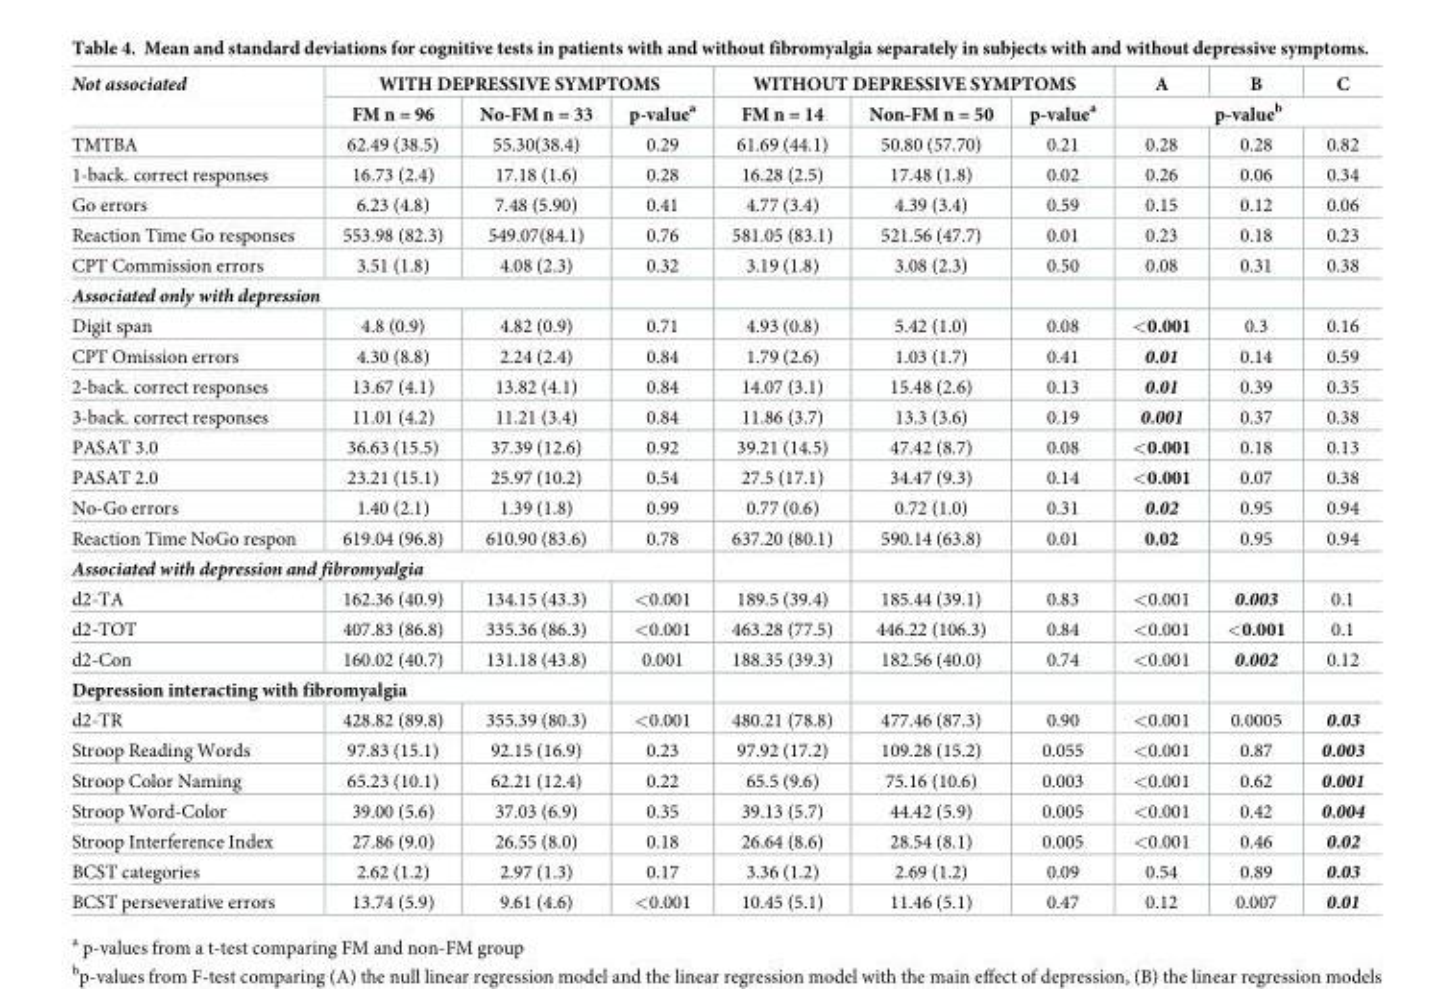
<table><thead><tr><td rowspan="2">Not associated</td><td colspan="3">WITH DEPRESSIVE SYMPTOMS</td><td colspan="3">WITHOUT DEPRESSIVE SYMPTOMS</td><td>A</td><td>B</td><td>C</td></tr><tr><td>FM n = 96</td><td>No-FM n = 33</td><td>p-value<sup>a</sup></td><td>FM n = 14</td><td>Non-FM n = 50</td><td>p-value<sup>a</sup></td><td colspan="3">p-value<sup>b</sup></td></tr></thead><tbody><tr><td>TMTBA</td><td>62.49 (38.5)</td><td>55.30(38.4)</td><td>0.29</td><td>61.69 (44.1)</td><td>50.80 (57.70)</td><td>0.21</td><td>0.28</td><td>0.28</td><td>0.82</td></tr><tr><td>1-back. correct responses</td><td>16.73 (2.4)</td><td>17.18 (1.6)</td><td>0.28</td><td>16.28 (2.5)</td><td>17.48 (1.8)</td><td>0.02</td><td>0.26</td><td>0.06</td><td>0.34</td></tr><tr><td>Go errors</td><td>6.23 (4.8)</td><td>7.48 (5.90)</td><td>0.41</td><td>4.77 (3.4)</td><td>4.39 (3.4)</td><td>0.59</td><td>0.15</td><td>0.12</td><td>0.06</td></tr><tr><td>Reaction Time Go responses</td><td>553.98 (82.3)</td><td>549.07(84.1)</td><td>0.76</td><td>581.05 (83.1)</td><td>521.56 (47.7)</td><td>0.01</td><td>0.23</td><td>0.18</td><td>0.23</td></tr><tr><td>CPT Commission errors</td><td>3.51 (1.8)</td><td>4.08 (2.3)</td><td>0.32</td><td>3.19 (1.8)</td><td>3.08 (2.3)</td><td>0.50</td><td>0.08</td><td>0.31</td><td>0.38</td></tr><tr><td colspan="10">Associated only with depression</td></tr><tr><td>Digit span</td><td>4.8 (0.9)</td><td>4.82 (0.9)</td><td>0.71</td><td>4.93 (0.8)</td><td>5.42 (1.0)</td><td>0.08</td><td>&lt;0.001</td><td>0.3</td><td>0.16</td></tr><tr><td>CPT Omission errors</td><td>4.30 (8.8)</td><td>2.24 (2.4)</td><td>0.84</td><td>1.79 (2.6)</td><td>1.03 (1.7)</td><td>0.41</td><td>0.01</td><td>0.14</td><td>0.59</td></tr><tr><td>2-back. correct responses</td><td>13.67 (4.1)</td><td>13.82 (4.1)</td><td>0.84</td><td>14.07 (3.1)</td><td>15.48 (2.6)</td><td>0.13</td><td>0.01</td><td>0.39</td><td>0.35</td></tr><tr><td>3-back. correct responses</td><td>11.01 (4.2)</td><td>11.21 (3.4)</td><td>0.84</td><td>11.86 (3.7)</td><td>13.3 (3.6)</td><td>0.19</td><td>0.001</td><td>0.37</td><td>0.38</td></tr><tr><td>PASAT 3.0</td><td>36.63 (15.5)</td><td>37.39 (12.6)</td><td>0.92</td><td>39.21 (14.5)</td><td>47.42 (8.7)</td><td>0.08</td><td>&lt;0.001</td><td>0.18</td><td>0.13</td></tr><tr><td>PASAT 2.0</td><td>23.21 (15.1)</td><td>25.97 (10.2)</td><td>0.54</td><td>27.5 (17.1)</td><td>34.47 (9.3)</td><td>0.14</td><td>&lt;0.001</td><td>0.07</td><td>0.38</td></tr><tr><td>No-Go errors</td><td>1.40 (2.1)</td><td>1.39 (1.8)</td><td>0.99</td><td>0.77 (0.6)</td><td>0.72 (1.0)</td><td>0.31</td><td>0.02</td><td>0.95</td><td>0.94</td></tr><tr><td>Reaction Time NoGo respon</td><td>619.04 (96.8)</td><td>610.90 (83.6)</td><td>0.78</td><td>637.20 (80.1)</td><td>590.14 (63.8)</td><td>0.01</td><td>0.02</td><td>0.95</td><td>0.94</td></tr><tr><td colspan="10">Associated with depression and fibromyalgia</td></tr><tr><td>d2-TA</td><td>162.36 (40.9)</td><td>134.15 (43.3)</td><td>&lt;0.001</td><td>189.5 (39.4)</td><td>185.44 (39.1)</td><td>0.83</td><td>&lt;0.001</td><td>0.003</td><td>0.1</td></tr><tr><td>d2-TOT</td><td>407.83 (86.8)</td><td>335.36 (86.3)</td><td>&lt;0.001</td><td>463.28 (77.5)</td><td>446.22 (106.3)</td><td>0.84</td><td>&lt;0.001</td><td>&lt;0.001</td><td>0.1</td></tr><tr><td>d2-Con</td><td>160.02 (40.7)</td><td>131.18 (43.8)</td><td>0.001</td><td>188.35 (39.3)</td><td>182.56 (40.0)</td><td>0.74</td><td>&lt;0.001</td><td>0.002</td><td>0.12</td></tr><tr><td colspan="10">Depression interacting with fibromyalgia</td></tr><tr><td>d2-TR</td><td>428.82 (89.8)</td><td>355.39 (80.3)</td><td>&lt;0.001</td><td>480.21 (78.8)</td><td>477.46 (87.3)</td><td>0.90</td><td>&lt;0.001</td><td>0.0005</td><td>0.03</td></tr><tr><td>Stroop Reading Words</td><td>97.83 (15.1)</td><td>92.15 (16.9)</td><td>0.23</td><td>97.92 (17.2)</td><td>109.28 (15.2)</td><td>0.055</td><td>&lt;0.001</td><td>0.87</td><td>0.003</td></tr><tr><td>Stroop Color Naming</td><td>65.23 (10.1)</td><td>62.21 (12.4)</td><td>0.22</td><td>65.5 (9.6)</td><td>75.16 (10.6)</td><td>0.003</td><td>&lt;0.001</td><td>0.62</td><td>0.001</td></tr><tr><td>Stroop Word-Color</td><td>39.00 (5.6)</td><td>37.03 (6.9)</td><td>0.35</td><td>39.13 (5.7)</td><td>44.42 (5.9)</td><td>0.005</td><td>&lt;0.001</td><td>0.42</td><td>0.004</td></tr><tr><td>Stroop Interference Index</td><td>27.86 (9.0)</td><td>26.55 (8.0)</td><td>0.18</td><td>26.64 (8.6)</td><td>28.54 (8.1)</td><td>0.005</td><td>&lt;0.001</td><td>0.46</td><td>0.02</td></tr><tr><td>BCST categories</td><td>2.62 (1.2)</td><td>2.97 (1.3)</td><td>0.17</td><td>3.36 (1.2)</td><td>2.69 (1.2)</td><td>0.09</td><td>0.54</td><td>0.89</td><td>0.03</td></tr><tr><td>BCST perseverative errors</td><td>13.74 (5.9)</td><td>9.61 (4.6)</td><td>&lt;0.001</td><td>10.45 (5.1)</td><td>11.46 (5.1)</td><td>0.47</td><td>0.12</td><td>0.007</td><td>0.01</td></tr></tbody></table>